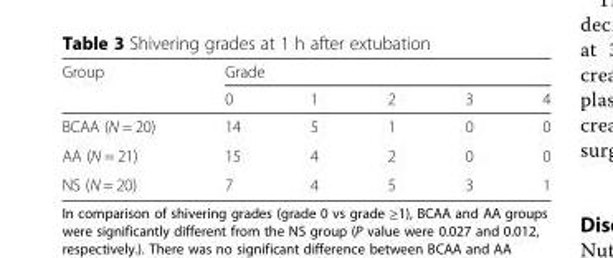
<table><thead><tr><td rowspan="2">Group</td><td colspan="5">Grade</td></tr><tr><td>0</td><td>1</td><td>2</td><td>3</td><td>4</td></tr></thead><tbody><tr><td>BCAA (N = 20)</td><td>14</td><td>5</td><td>1</td><td>0</td><td>0</td></tr><tr><td>AA (N = 21)</td><td>15</td><td>4</td><td>2</td><td>0</td><td>0</td></tr><tr><td>NS (N = 20)</td><td>7</td><td>4</td><td>5</td><td>3</td><td>1</td></tr></tbody></table>